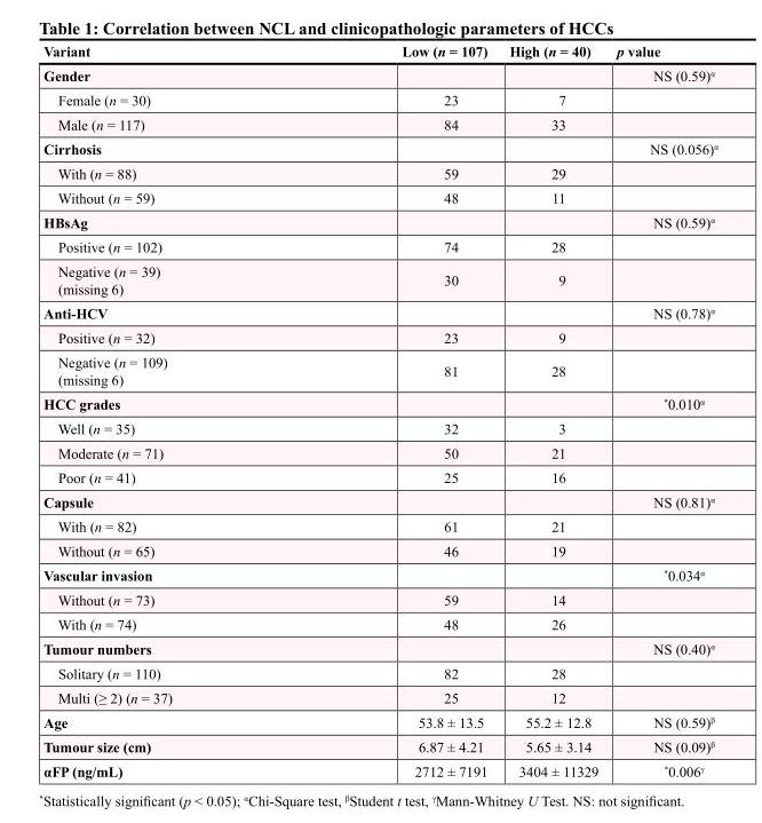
<table><thead><tr><td>Variant</td><td>Low (n = 107)</td><td>High (n = 40)</td><td>p value</td></tr></thead><tbody><tr><td>Gender</td><td></td><td></td><td>NS (0.59)<sup>α</sup></td></tr><tr><td>Female (n = 30)</td><td>23</td><td>7</td><td></td></tr><tr><td>Male (n = 117)</td><td>84</td><td>33</td><td></td></tr><tr><td>Cirrhosis</td><td></td><td></td><td>NS (0.056)<sup>α</sup></td></tr><tr><td>With (n = 88)</td><td>59</td><td>29</td><td></td></tr><tr><td>Without (n = 59)</td><td>48</td><td>11</td><td></td></tr><tr><td>HBsAg</td><td></td><td></td><td>NS (0.59)<sup>α</sup></td></tr><tr><td>Positive (n = 102)</td><td>74</td><td>28</td><td></td></tr><tr><td>Negative (n = 39) (missing 6)</td><td>30</td><td>9</td><td></td></tr><tr><td>Anti-HCV</td><td></td><td></td><td>NS (0.78)<sup>α</sup></td></tr><tr><td>Positive (n = 32)</td><td>23</td><td>9</td><td></td></tr><tr><td>Negative (n = 109) (missing 6)</td><td>81</td><td>28</td><td></td></tr><tr><td>HCC grades</td><td></td><td></td><td>*0.010<sup>α</sup></td></tr><tr><td>Well (n = 35)</td><td>32</td><td>3</td><td></td></tr><tr><td>Moderate (n = 71)</td><td>50</td><td>21</td><td></td></tr><tr><td>Poor (n = 41)</td><td>25</td><td>16</td><td></td></tr><tr><td>Capsule</td><td></td><td></td><td>NS (0.81)<sup>α</sup></td></tr><tr><td>With (n = 82)</td><td>61</td><td>21</td><td></td></tr><tr><td>Without (n = 65)</td><td>46</td><td>19</td><td></td></tr><tr><td>Vascular invasion</td><td></td><td></td><td>*0.034<sup>α</sup></td></tr><tr><td>Without (n = 73)</td><td>59</td><td>14</td><td></td></tr><tr><td>With (n = 74)</td><td>48</td><td>26</td><td></td></tr><tr><td>Tumour numbers</td><td></td><td></td><td>NS (0.40)<sup>α</sup></td></tr><tr><td>Solitary (n = 110)</td><td>82</td><td>28</td><td></td></tr><tr><td>Multi (≥ 2) (n = 37)</td><td>25</td><td>12</td><td></td></tr><tr><td>Age</td><td>53.8 ± 13.5</td><td>55.2 ± 12.8</td><td>NS (0.59)<sup>β</sup></td></tr><tr><td>Tumour size (cm)</td><td>6.87 ± 4.21</td><td>5.65 ± 3.14</td><td>NS (0.09)<sup>β</sup></td></tr><tr><td>αFP (ng/mL)</td><td>2712 ± 7191</td><td>3404 ± 11329</td><td>*0.006<sup>γ</sup></td></tr></tbody></table>